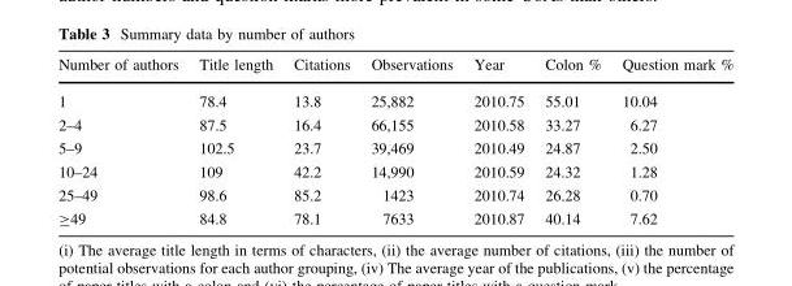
<table><thead><tr><td>Number of authors</td><td>Title length</td><td>Citations</td><td>Observations</td><td>Year</td><td>Colon %</td><td>Question mark %</td></tr></thead><tbody><tr><td>1</td><td>78.4</td><td>13.8</td><td>25,882</td><td>2010.75</td><td>55.01</td><td>10.04</td></tr><tr><td>2–4</td><td>87.5</td><td>16.4</td><td>66,155</td><td>2010.58</td><td>33.27</td><td>6.27</td></tr><tr><td>5–9</td><td>102.5</td><td>23.7</td><td>39,469</td><td>2010.49</td><td>24.87</td><td>2.50</td></tr><tr><td>10–24</td><td>109</td><td>42.2</td><td>14,990</td><td>2010.59</td><td>24.32</td><td>1.28</td></tr><tr><td>25–49</td><td>98.6</td><td>85.2</td><td>1423</td><td>2010.74</td><td>26.28</td><td>0.70</td></tr><tr><td>≥49</td><td>84.8</td><td>78.1</td><td>7633</td><td>2010.87</td><td>40.14</td><td>7.62</td></tr></tbody></table>